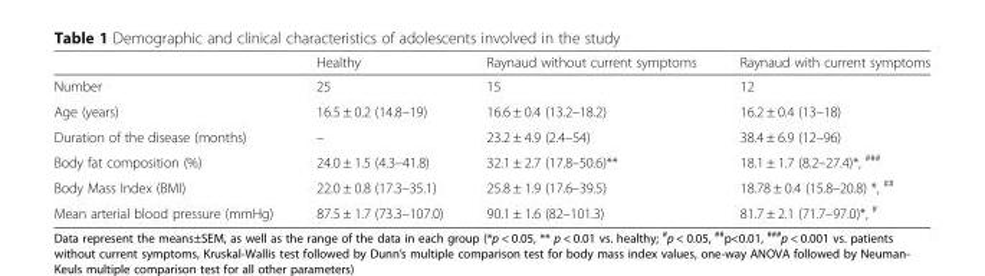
<table><thead><tr><td></td><td>Healthy</td><td>Raynaud without current symptoms</td><td>Raynaud with current symptoms</td></tr></thead><tbody><tr><td>Number</td><td>25</td><td>15</td><td>12</td></tr><tr><td>Age (years)</td><td>16.5 ± 0.2 (14.8–19)</td><td>16.6 ± 0.4 (13.2–18.2)</td><td>16.2 ± 0.4 (13–18)</td></tr><tr><td>Duration of the disease (months)</td><td>–</td><td>23.2 ± 4.9 (2.4–54)</td><td>38.4 ± 6.9 (12–96)</td></tr><tr><td>Body fat composition (%)</td><td>24.0 ± 1.5 (4.3–41.8)</td><td>32.1 ± 2.7 (17.8–50.6)**</td><td>18.1 ± 1.7 (8.2–27.4)*, <sup>###</sup></td></tr><tr><td>Body Mass Index (BMI)</td><td>22.0 ± 0.8 (17.3–35.1)</td><td>25.8 ± 1.9 (17.6–39.5)</td><td>18.78 ± 0.4 (15.8–20.8) *, <sup>##</sup></td></tr><tr><td>Mean arterial blood pressure (mmHg)</td><td>87.5 ± 1.7 (73.3–107.0)</td><td>90.1 ± 1.6 (82–101.3)</td><td>81.7 ± 2.1 (71.7–97.0)*, <sup>#</sup></td></tr></tbody></table>